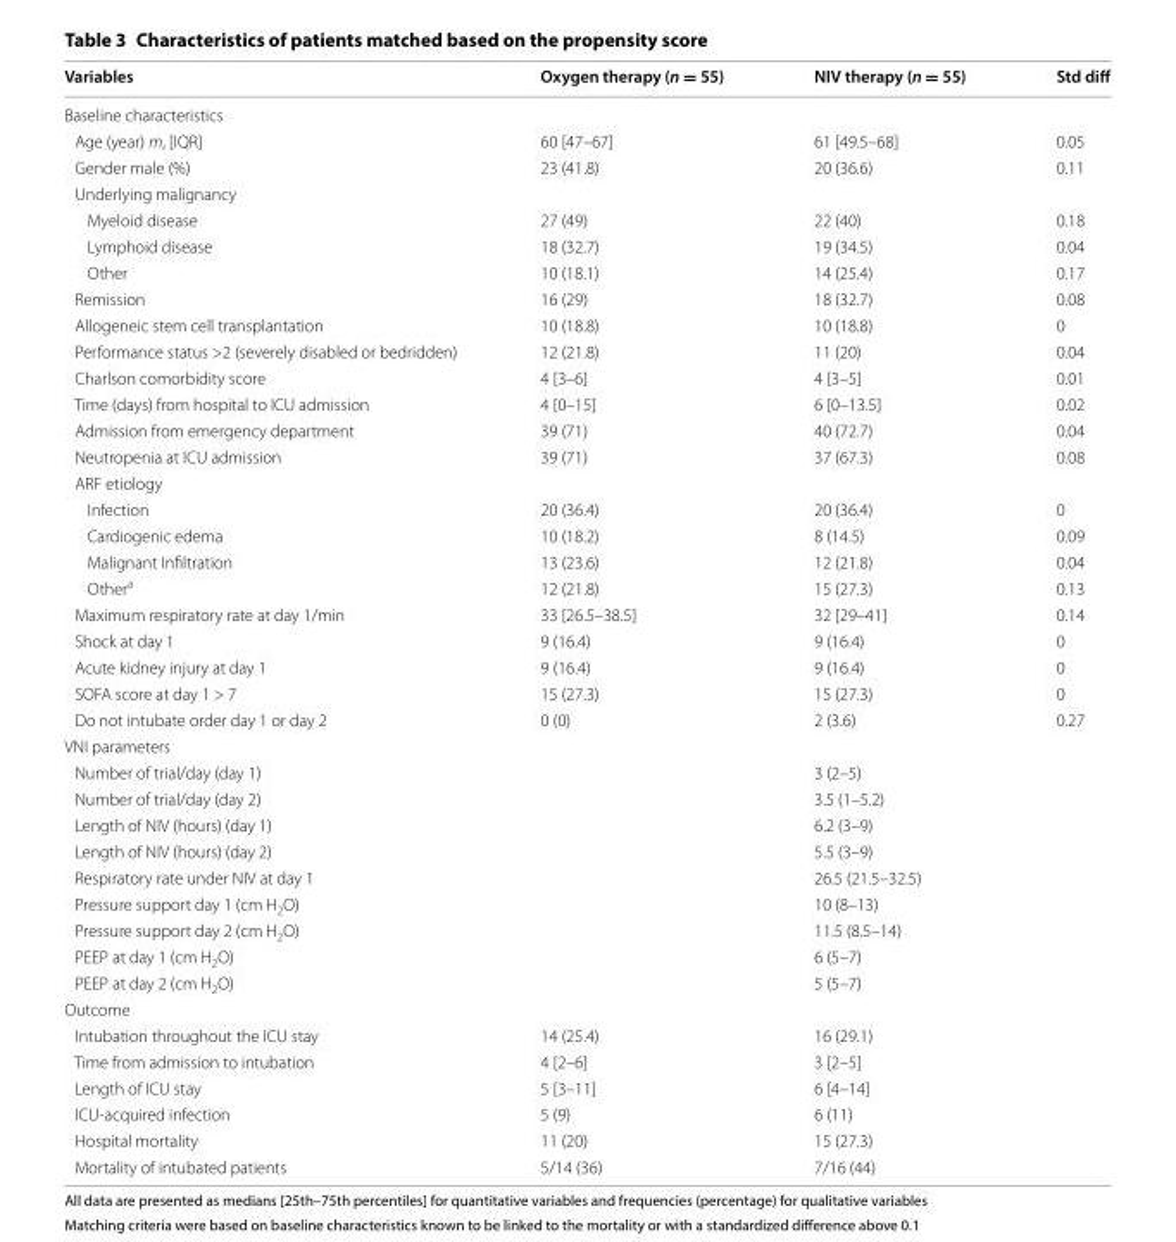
<table><thead><tr><td>Variables</td><td>Oxygen therapy (n = 55)</td><td>NIV therapy (n = 55)</td><td>Std diff</td></tr></thead><tbody><tr><td colspan="4">Baseline characteristics</td></tr><tr><td>Age (year) m, [IQR]</td><td>60 [47–67]</td><td>61 [49.5–68]</td><td>0.05</td></tr><tr><td>Gender male (%)</td><td>23 (41.8)</td><td>20 (36.6)</td><td>0.11</td></tr><tr><td colspan="4">Underlying malignancy</td></tr><tr><td>Myeloid disease</td><td>27 (49)</td><td>22 (40)</td><td>0.18</td></tr><tr><td>Lymphoid disease</td><td>18 (32.7)</td><td>19 (34.5)</td><td>0.04</td></tr><tr><td>Other</td><td>10 (18.1)</td><td>14 (25.4)</td><td>0.17</td></tr><tr><td>Remission</td><td>16 (29)</td><td>18 (32.7)</td><td>0.08</td></tr><tr><td>Allogeneic stem cell transplantation</td><td>10 (18.8)</td><td>10 (18.8)</td><td>0</td></tr><tr><td>Performance status &gt;2 (severely disabled or bedridden)</td><td>12 (21.8)</td><td>11 (20)</td><td>0.04</td></tr><tr><td>Charlson comorbidity score</td><td>4 [3–6]</td><td>4 [3–5]</td><td>0.01</td></tr><tr><td>Time (days) from hospital to ICU admission</td><td>4 [0–15]</td><td>6 [0–13.5]</td><td>0.02</td></tr><tr><td>Admission from emergency department</td><td>39 (71)</td><td>40 (72.7)</td><td>0.04</td></tr><tr><td>Neutropenia at ICU admission</td><td>39 (71)</td><td>37 (67.3)</td><td>0.08</td></tr><tr><td colspan="4">ARF etiology</td></tr><tr><td>Infection</td><td>20 (36.4)</td><td>20 (36.4)</td><td>0</td></tr><tr><td>Cardiogenic edema</td><td>10 (18.2)</td><td>8 (14.5)</td><td>0.09</td></tr><tr><td>Malignant Infiltration</td><td>13 (23.6)</td><td>12 (21.8)</td><td>0.04</td></tr><tr><td>Other<sup>a</sup></td><td>12 (21.8)</td><td>15 (27.3)</td><td>0.13</td></tr><tr><td>Maximum respiratory rate at day 1/min</td><td>33 [26.5–38.5]</td><td>32 [29–41]</td><td>0.14</td></tr><tr><td>Shock at day 1</td><td>9 (16.4)</td><td>9 (16.4)</td><td>0</td></tr><tr><td>Acute kidney injury at day 1</td><td>9 (16.4)</td><td>9 (16.4)</td><td>0</td></tr><tr><td>SOFA score at day 1 &gt; 7</td><td>15 (27.3)</td><td>15 (27.3)</td><td>0</td></tr><tr><td>Do not intubate order day 1 or day 2</td><td>0 (0)</td><td>2 (3.6)</td><td>0.27</td></tr><tr><td colspan="4">VNI parameters</td></tr><tr><td>Number of trial/day (day 1)</td><td></td><td>3 (2–5)</td><td></td></tr><tr><td>Number of trial/day (day 2)</td><td></td><td>3.5 (1–5.2)</td><td></td></tr><tr><td>Length of NIV (hours) (day 1)</td><td></td><td>6.2 (3–9)</td><td></td></tr><tr><td>Length of NIV (hours) (day 2)</td><td></td><td>5.5 (3–9)</td><td></td></tr><tr><td>Respiratory rate under NIV at day 1</td><td></td><td>26.5 (21.5–32.5)</td><td></td></tr><tr><td>Pressure support day 1 (cm H<sub>2</sub>O)</td><td></td><td>10 (8–13)</td><td></td></tr><tr><td>Pressure support day 2 (cm H<sub>2</sub>O)</td><td></td><td>11.5 (8.5–14)</td><td></td></tr><tr><td>PEEP at day 1 (cm H<sub>2</sub>O)</td><td></td><td>6 (5–7)</td><td></td></tr><tr><td>PEEP at day 2 (cm H<sub>2</sub>O)</td><td></td><td>5 (5–7)</td><td></td></tr><tr><td colspan="4">Outcome</td></tr><tr><td>Intubation throughout the ICU stay</td><td>14 (25.4)</td><td>16 (29.1)</td><td></td></tr><tr><td>Time from admission to intubation</td><td>4 [2–6]</td><td>3 [2–5]</td><td></td></tr><tr><td>Length of ICU stay</td><td>5 [3–11]</td><td>6 [4–14]</td><td></td></tr><tr><td>ICU‑acquired infection</td><td>5 (9)</td><td>6 (11)</td><td></td></tr><tr><td>Hospital mortality</td><td>11 (20)</td><td>15 (27.3)</td><td></td></tr><tr><td>Mortality of intubated patients</td><td>5/14 (36)</td><td>7/16 (44)</td><td></td></tr></tbody></table>